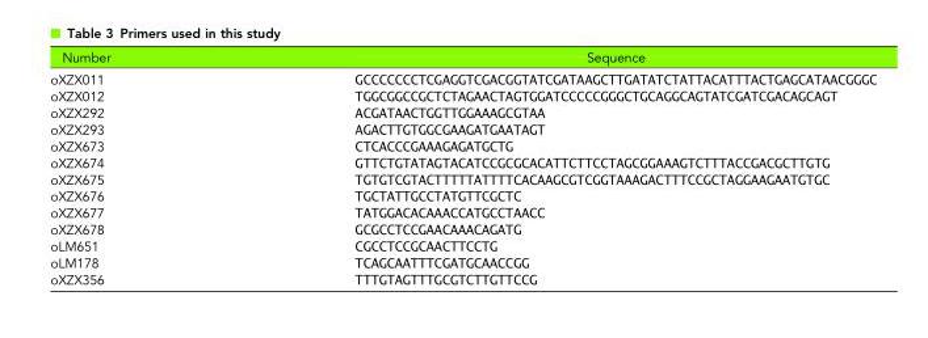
<table><thead><tr><td>Number</td><td>Sequence</td></tr></thead><tbody><tr><td>oXZX011</td><td>GCCCCCCCTCGAGGTCGACGGTATCGATAAGCTTGATATCTATTACATTTACTGAGCATAACGGGC</td></tr><tr><td>oXZX012</td><td>TGGCGGCCGCTCTAGAACTAGTGGATCCCCCGGGCTGCAGGCAGTATCGATCGACAGCAGT</td></tr><tr><td>oXZX292</td><td>ACGATAACTGGTTGGAAAGCGTAA</td></tr><tr><td>oXZX293</td><td>AGACTTGTGGCGAAGATGAATAGT</td></tr><tr><td>oXZX673</td><td>CTCACCCGAAAGAGATGCTG</td></tr><tr><td>oXZX674</td><td>GTTCTGTATAGTACATCCGCGCACATTCTTCCTAGCGGAAAGTCTTTACCGACGCTTGTG</td></tr><tr><td>oXZX675</td><td>TGTGTCGTACTTTTTATTTTCACAAGCGTCGGTAAAGACTTTCCGCTAGGAAGAATGTGC</td></tr><tr><td>oXZX676</td><td>TGCTATTGCCTATGTTCGCTC</td></tr><tr><td>oXZX677</td><td>TATGGACACAAACCATGCCTAACC</td></tr><tr><td>oXZX678</td><td>GCGCCTCCGAACAAACAGATG</td></tr><tr><td>oLM651</td><td>CGCCTCCGCAACTTCCTG</td></tr><tr><td>oLM178</td><td>TCAGCAATTTCGATGCAACCGG</td></tr><tr><td>oXZX356</td><td>TTTGTAGTTTGCGTCTTGTTCCG</td></tr></tbody></table>